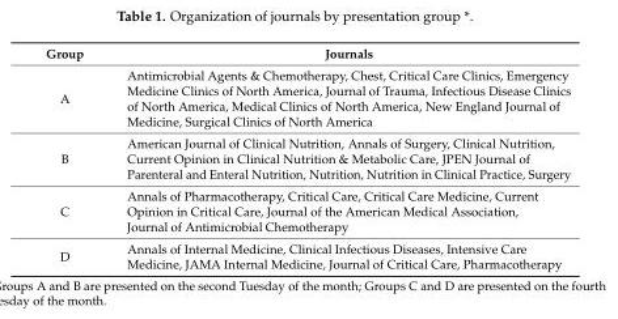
<table><thead><tr><td>Group</td><td>Journals</td></tr></thead><tbody><tr><td>A</td><td>Antimicrobial Agents &amp; Chemotherapy, Chest, Critical Care Clinics, Emergency Medicine Clinics of North America, Journal of Trauma, Infectious Disease Clinics of North America, Medical Clinics of North America, New England Journal of Medicine, Surgical Clinics of North America</td></tr><tr><td>B</td><td>American Journal of Clinical Nutrition, Annals of Surgery, Clinical Nutrition, Current Opinion in Clinical Nutrition &amp; Metabolic Care, JPEN Journal of Parenteral and Enteral Nutrition, Nutrition, Nutrition in Clinical Practice, Surgery</td></tr><tr><td>C</td><td>Annals of Pharmacotherapy, Critical Care, Critical Care Medicine, Current Opinion in Critical Care, Journal of the American Medical Association, Journal of Antimicrobial Chemotherapy</td></tr><tr><td>D</td><td>Annals of Internal Medicine, Clinical Infectious Diseases, Intensive Care Medicine, JAMA Internal Medicine, Journal of Critical Care, Pharmacotherapy</td></tr></tbody></table>